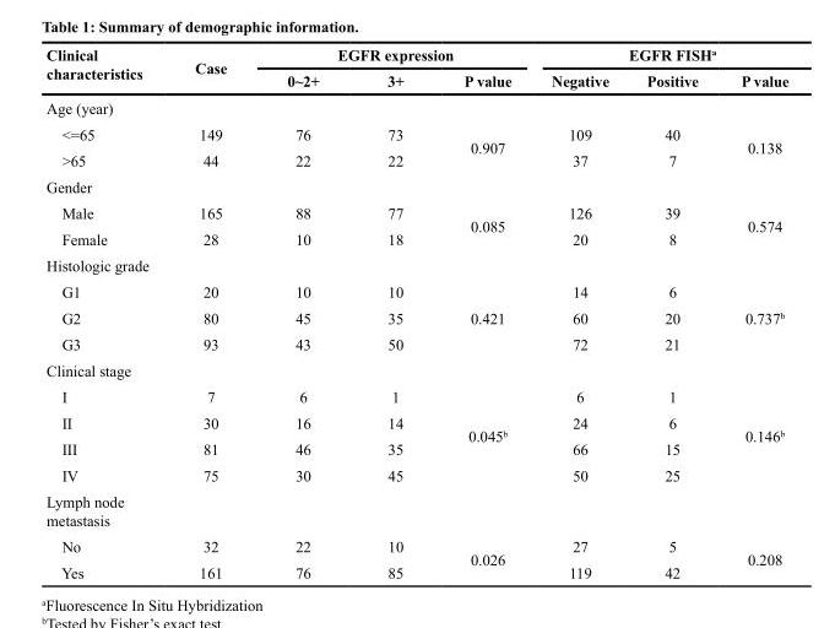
<table><thead><tr><td rowspan="2">Clinical characteristics</td><td rowspan="2">Case</td><td colspan="3">EGFR expression</td><td colspan="3">EGFR FISH<sup>a</sup></td></tr><tr><td>0~2+</td><td>3+</td><td>P value</td><td>Negative</td><td>Positive</td><td>P value</td></tr></thead><tbody><tr><td colspan="8">Age (year)</td></tr><tr><td>&lt;=65</td><td>149</td><td>76</td><td>73</td><td rowspan="2">0.907</td><td>109</td><td>40</td><td rowspan="2">0.138</td></tr><tr><td>&gt;65</td><td>44</td><td>22</td><td>22</td><td>37</td><td>7</td></tr><tr><td colspan="8">Gender</td></tr><tr><td>Male</td><td>165</td><td>88</td><td>77</td><td rowspan="2">0.085</td><td>126</td><td>39</td><td rowspan="2">0.574</td></tr><tr><td>Female</td><td>28</td><td>10</td><td>18</td><td>20</td><td>8</td></tr><tr><td colspan="8">Histologic grade</td></tr><tr><td>G1</td><td>20</td><td>10</td><td>10</td><td rowspan="3">0.421</td><td>14</td><td>6</td><td rowspan="3">0.737<sup>b</sup></td></tr><tr><td>G2</td><td>80</td><td>45</td><td>35</td><td>60</td><td>20</td></tr><tr><td>G3</td><td>93</td><td>43</td><td>50</td><td>72</td><td>21</td></tr><tr><td colspan="8">Clinical stage</td></tr><tr><td>I</td><td>7</td><td>6</td><td>1</td><td rowspan="4">0.045<sup>b</sup></td><td>6</td><td>1</td><td rowspan="4">0.146<sup>b</sup></td></tr><tr><td>II</td><td>30</td><td>16</td><td>14</td><td>24</td><td>6</td></tr><tr><td>III</td><td>81</td><td>46</td><td>35</td><td>66</td><td>15</td></tr><tr><td>IV</td><td>75</td><td>30</td><td>45</td><td>50</td><td>25</td></tr><tr><td colspan="8">Lymph node metastasis</td></tr><tr><td>No</td><td>32</td><td>22</td><td>10</td><td rowspan="2">0.026</td><td>27</td><td>5</td><td rowspan="2">0.208</td></tr><tr><td>Yes</td><td>161</td><td>76</td><td>85</td><td>119</td><td>42</td></tr></tbody></table>